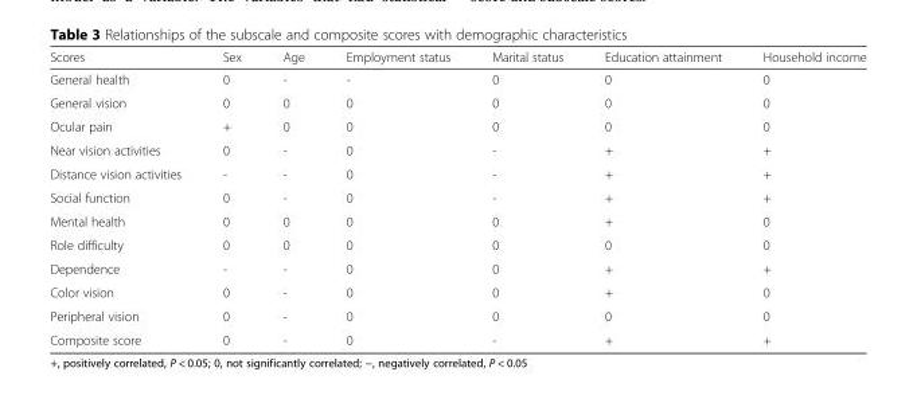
<table><thead><tr><td>Scores</td><td>Sex</td><td>Age</td><td>Employment status</td><td>Marital status</td><td>Education attainment</td><td>Household income</td></tr></thead><tbody><tr><td>General health</td><td>0</td><td>-</td><td>-</td><td>0</td><td>0</td><td>0</td></tr><tr><td>General vision</td><td>0</td><td>0</td><td>0</td><td>0</td><td>0</td><td>0</td></tr><tr><td>Ocular pain</td><td>+</td><td>0</td><td>0</td><td>0</td><td>0</td><td>0</td></tr><tr><td>Near vision activities</td><td>0</td><td>-</td><td>0</td><td>-</td><td>+</td><td>+</td></tr><tr><td>Distance vision activities</td><td>-</td><td>-</td><td>0</td><td>-</td><td>+</td><td>+</td></tr><tr><td>Social function</td><td>0</td><td>-</td><td>0</td><td>-</td><td>+</td><td>+</td></tr><tr><td>Mental health</td><td>0</td><td>0</td><td>0</td><td>0</td><td>+</td><td>0</td></tr><tr><td>Role difficulty</td><td>0</td><td>0</td><td>0</td><td>0</td><td>0</td><td>0</td></tr><tr><td>Dependence</td><td>-</td><td>-</td><td>0</td><td>0</td><td>+</td><td>+</td></tr><tr><td>Color vision</td><td>0</td><td>-</td><td>0</td><td>0</td><td>+</td><td>0</td></tr><tr><td>Peripheral vision</td><td>0</td><td>-</td><td>0</td><td>0</td><td>0</td><td>0</td></tr><tr><td>Composite score</td><td>0</td><td>-</td><td>0</td><td>-</td><td>+</td><td>+</td></tr></tbody></table>